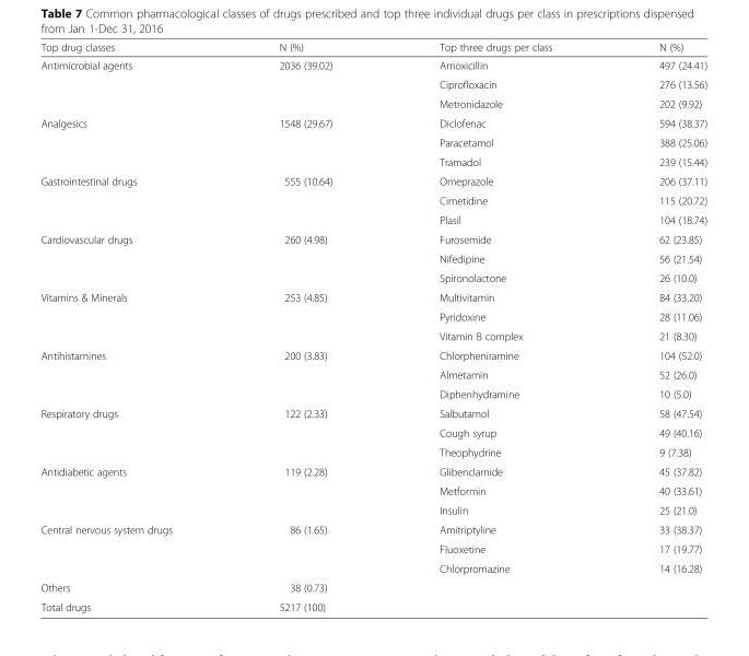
<table><thead><tr><td>Top drug classes</td><td>N (%)</td><td>Top three drugs per class</td><td>N (%)</td></tr></thead><tbody><tr><td rowspan="3">Antimicrobial agents</td><td rowspan="3">2036 (39.02)</td><td>Amoxicillin</td><td>497 (24.41)</td></tr><tr><td>Ciprofloxacin</td><td>276 (13.56)</td></tr><tr><td>Metronidazole</td><td>202 (9.92)</td></tr><tr><td rowspan="3">Analgesics</td><td rowspan="3">1548 (29.67)</td><td>Diclofenac</td><td>594 (38.37)</td></tr><tr><td>Paracetamol</td><td>388 (25.06)</td></tr><tr><td>Tramadol</td><td>239 (15.44)</td></tr><tr><td rowspan="3">Gastrointestinal drugs</td><td rowspan="3">555 (10.64)</td><td>Omeprazole</td><td>206 (37.11)</td></tr><tr><td>Cimetidine</td><td>115 (20.72)</td></tr><tr><td>Plasil</td><td>104 (18.74)</td></tr><tr><td rowspan="3">Cardiovascular drugs</td><td rowspan="3">260 (4.98)</td><td>Furosemide</td><td>62 (23.85)</td></tr><tr><td>Nifedipine</td><td>56 (21.54)</td></tr><tr><td>Spironolactone</td><td>26 (10.0)</td></tr><tr><td rowspan="3">Vitamins &amp; Minerals</td><td rowspan="3">253 (4.85)</td><td>Multivitamin</td><td>84 (33.20)</td></tr><tr><td>Pyridoxine</td><td>28 (11.06)</td></tr><tr><td>Vitamin B complex</td><td>21 (8.30)</td></tr><tr><td rowspan="3">Antihistamines</td><td rowspan="3">200 (3.83)</td><td>Chlorpheniramine</td><td>104 (52.0)</td></tr><tr><td>Almetamin</td><td>52 (26.0)</td></tr><tr><td>Diphenhydramine</td><td>10 (5.0)</td></tr><tr><td rowspan="3">Respiratory drugs</td><td rowspan="3">122 (2.33)</td><td>Salbutamol</td><td>58 (47.54)</td></tr><tr><td>Cough syrup</td><td>49 (40.16)</td></tr><tr><td>Theophydrine</td><td>9 (7.38)</td></tr><tr><td rowspan="3">Antidiabetic agents</td><td rowspan="3">119 (2.28)</td><td>Glibenclamide</td><td>45 (37.82)</td></tr><tr><td>Metformin</td><td>40 (33.61)</td></tr><tr><td>Insulin</td><td>25 (21.0)</td></tr><tr><td rowspan="3">Central nervous system drugs</td><td rowspan="3">86 (1.65)</td><td>Amitriptyline</td><td>33 (38.37)</td></tr><tr><td>Fluoxetine</td><td>17 (19.77)</td></tr><tr><td>Chlorpromazine</td><td>14 (16.28)</td></tr><tr><td>Others</td><td>38 (0.73)</td><td></td><td></td></tr><tr><td>Total drugs</td><td>5217 (100)</td><td></td><td></td></tr></tbody></table>